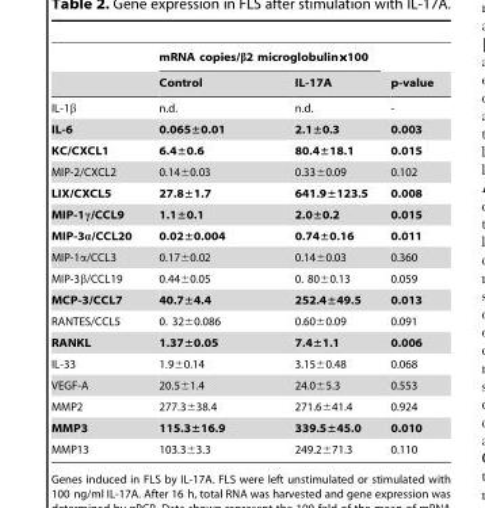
<table><thead><tr><td rowspan="2"></td><td colspan="2">mRNA copies/β2 microglobulin×100</td><td rowspan="2">p-value</td></tr><tr><td>Control</td><td>IL-17A</td></tr></thead><tbody><tr><td>IL-1β</td><td>n.d.</td><td>n.d.</td><td>-</td></tr><tr><td>IL-6</td><td>0.065±0.01</td><td>2.1±0.3</td><td>0.003</td></tr><tr><td>KC/CXCL1</td><td>6.4±0.6</td><td>80.4±18.1</td><td>0.015</td></tr><tr><td>MIP-2/CXCL2</td><td>0.14±0.03</td><td>0.33±0.09</td><td>0.102</td></tr><tr><td>LIX/CXCL5</td><td>27.8±1.7</td><td>641.9±123.5</td><td>0.008</td></tr><tr><td>MIP-1γ/CCL9</td><td>1.1±0.1</td><td>2.0±0.2</td><td>0.015</td></tr><tr><td>MIP-3α/CCL20</td><td>0.02±0.004</td><td>0.74±0.16</td><td>0.011</td></tr><tr><td>MIP-1α/CCL3</td><td>0.17±0.02</td><td>0.14±0.03</td><td>0.360</td></tr><tr><td>MIP-3β/CCL19</td><td>0.44±0.05</td><td>0. 80±0.13</td><td>0.059</td></tr><tr><td>MCP-3/CCL7</td><td>40.7±4.4</td><td>252.4±49.5</td><td>0.013</td></tr><tr><td>RANTES/CCL5</td><td>0. 32±0.086</td><td>0.60±0.09</td><td>0.091</td></tr><tr><td>RANKL</td><td>1.37±0.05</td><td>7.4±1.1</td><td>0.006</td></tr><tr><td>IL-33</td><td>1.9±0.14</td><td>3.15±0.48</td><td>0.068</td></tr><tr><td>VEGF-A</td><td>20.5±1.4</td><td>24.0±5.3</td><td>0.553</td></tr><tr><td>MMP2</td><td>277.3±38.4</td><td>271.6±41.4</td><td>0.924</td></tr><tr><td>MMP3</td><td>115.3±16.9</td><td>339.5±45.0</td><td>0.010</td></tr><tr><td>MMP13</td><td>103.3±3.3</td><td>249.2±71.3</td><td>0.110</td></tr></tbody></table>